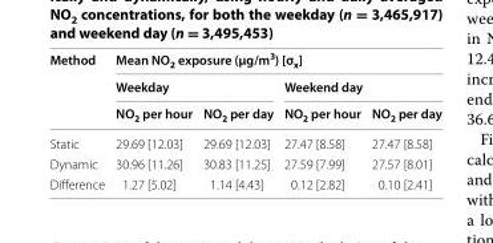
<table><thead><tr><td rowspan="3">Method</td><td colspan="4">Mean NO<sub>2</sub> exposure (μg/m<sup>3</sup>) [σ<sub>x</sub>]</td></tr><tr><td colspan="2">Weekday</td><td colspan="2">Weekend day</td></tr><tr><td>NO<sub>2</sub> per hour</td><td>NO<sub>2</sub> per day</td><td>NO<sub>2</sub> per hour</td><td>NO<sub>2</sub> per day</td></tr></thead><tbody><tr><td>Static</td><td>29.69 [12.03]</td><td>29.69 [12.03]</td><td>27.47 [8.58]</td><td>27.47 [8.58]</td></tr><tr><td>Dynamic</td><td>30.96 [11.26]</td><td>30.83 [11.25]</td><td>27.59 [7.99]</td><td>27.57 [8.01]</td></tr><tr><td>Difference</td><td>1.27 [5.02]</td><td>1.14 [4.43]</td><td>0.12 [2.82]</td><td>0.10 [2.41]</td></tr></tbody></table>